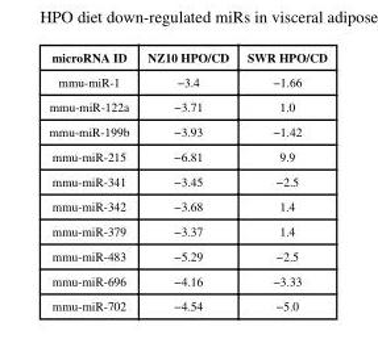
<table><thead><tr><td>microRNA ID</td><td>NZ10 HPO/CD</td><td>SWR HPO/CD</td></tr></thead><tbody><tr><td>mmu-miR-1</td><td>−3.4</td><td>−1.66</td></tr><tr><td>mmu-miR-122a</td><td>−3.71</td><td>1.0</td></tr><tr><td>mmu-miR-199b</td><td>−3.93</td><td>−1.42</td></tr><tr><td>mmu-miR-215</td><td>−6.81</td><td>9.9</td></tr><tr><td>mmu-miR-341</td><td>−3.45</td><td>−2.5</td></tr><tr><td>mmu-miR-342</td><td>−3.68</td><td>1.4</td></tr><tr><td>mmu-miR-379</td><td>−3.37</td><td>1.4</td></tr><tr><td>mmu-miR-483</td><td>−5.29</td><td>−2.5</td></tr><tr><td>mmu-miR-696</td><td>−4.16</td><td>−3.33</td></tr><tr><td>mmu-miR-702</td><td>−4.54</td><td>−5.0</td></tr></tbody></table>